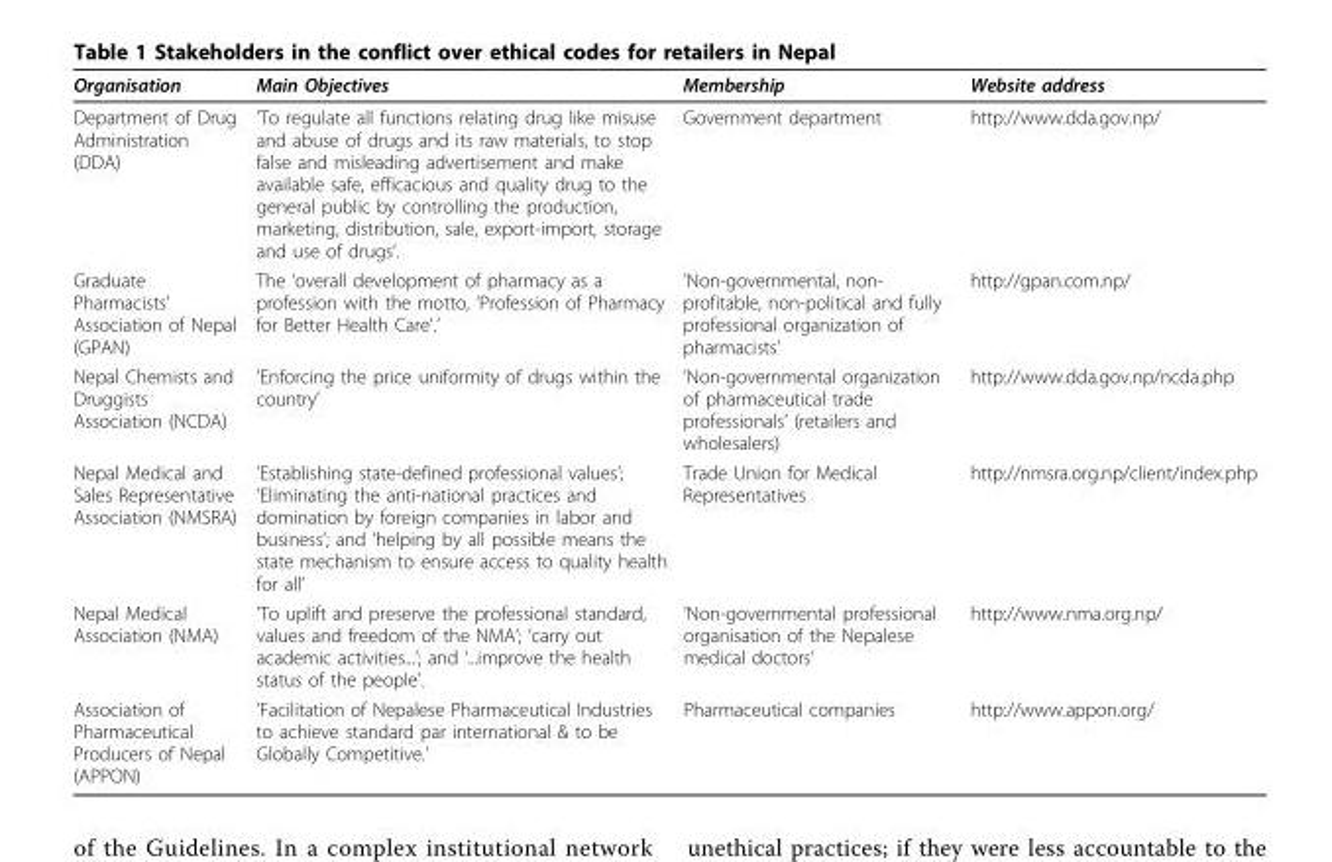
<table><thead><tr><td>Organisation</td><td>Main Objectives</td><td>Membership</td><td>Website address</td></tr></thead><tbody><tr><td>Department of Drug Administration (DDA)</td><td>’To regulate all functions relating drug like misuse and abuse of drugs and its raw materials, to stop false and misleading advertisement and make available safe, efficacious and quality drug to the general public by controlling the production, marketing, distribution, sale, export-import, storage and use of drugs’.</td><td>Government department</td><td>http://www.dda.gov.np/</td></tr><tr><td>Graduate Pharmacists’ Association of Nepal (GPAN)</td><td>The ‘overall development of pharmacy as a profession with the motto, ‘Profession of Pharmacy for Better Health Care’.’</td><td>’Non-governmental, non- profitable, non-political and fully professional organization of pharmacists’</td><td>http://gpan.com.np/</td></tr><tr><td>Nepal Chemists and Druggists Association (NCDA)</td><td>’Enforcing the price uniformity of drugs within the country’</td><td>’Non-governmental organization of pharmaceutical trade professionals’ (retailers and wholesalers)</td><td>http://www.dda.gov.np/ncda.php</td></tr><tr><td>Nepal Medical and Sales Representative Association (NMSRA)</td><td>’Establishing state-defined professional values’; ‘Eliminating the anti-national practices and domination by foreign companies in labor and business’; and ‘helping by all possible means the state mechanism to ensure access to quality health for all’</td><td>Trade Union for Medical Representatives</td><td>http://nmsra.org.np/client/index.php</td></tr><tr><td>Nepal Medical Association (NMA)</td><td>’To uplift and preserve the professional standard, values and freedom of the NMA’; ‘carry out academic activities...’; and ‘...improve the health status of the people’.</td><td>’Non-governmental professional organisation of the Nepalese medical doctors’</td><td>http://www.nma.org.np/</td></tr><tr><td>Association of Pharmaceutical Producers of Nepal (APPON)</td><td>’Facilitation of Nepalese Pharmaceutical Industries to achieve standard par international &amp; to be Globally Competitive.’</td><td>Pharmaceutical companies</td><td>http://www.appon.org/</td></tr></tbody></table>